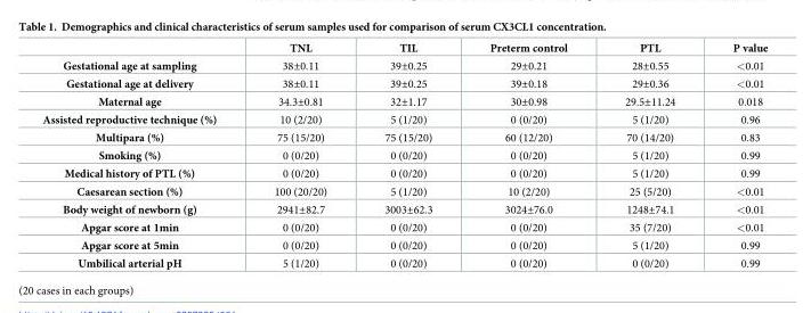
<table><thead><tr><td></td><td>TNL</td><td>TIL</td><td>Preterm control</td><td>PTL</td><td>P value</td></tr></thead><tbody><tr><td>Gestational age at sampling</td><td>38±0.11</td><td>39±0.25</td><td>29±0.21</td><td>28±0.55</td><td>&lt;0.01</td></tr><tr><td>Gestational age at delivery</td><td>38±0.11</td><td>39±0.25</td><td>39±0.18</td><td>29±0.36</td><td>&lt;0.01</td></tr><tr><td>Maternal age</td><td>34.3±0.81</td><td>32±1.17</td><td>30±0.98</td><td>29.5±11.24</td><td>0.018</td></tr><tr><td>Assisted reproductive technique (%)</td><td>10 (2/20)</td><td>5 (1/20)</td><td>0 (0/20)</td><td>5 (1/20)</td><td>0.96</td></tr><tr><td>Multipara (%)</td><td>75 (15/20)</td><td>75 (15/20)</td><td>60 (12/20)</td><td>70 (14/20)</td><td>0.83</td></tr><tr><td>Smoking (%)</td><td>0 (0/20)</td><td>0 (0/20)</td><td>0 (0/20)</td><td>5 (1/20)</td><td>0.99</td></tr><tr><td>Medical history of PTL (%)</td><td>0 (0/20)</td><td>0 (0/20)</td><td>0 (0/20)</td><td>5 (1/20)</td><td>0.99</td></tr><tr><td>Caesarean section (%)</td><td>100 (20/20)</td><td>5 (1/20)</td><td>10 (2/20)</td><td>25 (5/20)</td><td>&lt;0.01</td></tr><tr><td>Body weight of newborn (g)</td><td>2941±82.7</td><td>3003±62.3</td><td>3024±76.0</td><td>1248±74.1</td><td>&lt;0.01</td></tr><tr><td>Apgar score at 1min</td><td>0 (0/20)</td><td>0 (0/20)</td><td>0 (0/20)</td><td>35 (7/20)</td><td>&lt;0.01</td></tr><tr><td>Apgar score at 5min</td><td>0 (0/20)</td><td>0 (0/20)</td><td>0 (0/20)</td><td>5 (1/20)</td><td>0.99</td></tr><tr><td>Umbilical arterial pH</td><td>5 (1/20)</td><td>0 (0/20)</td><td>0 (0/20)</td><td>0 (0/20)</td><td>0.99</td></tr></tbody></table>